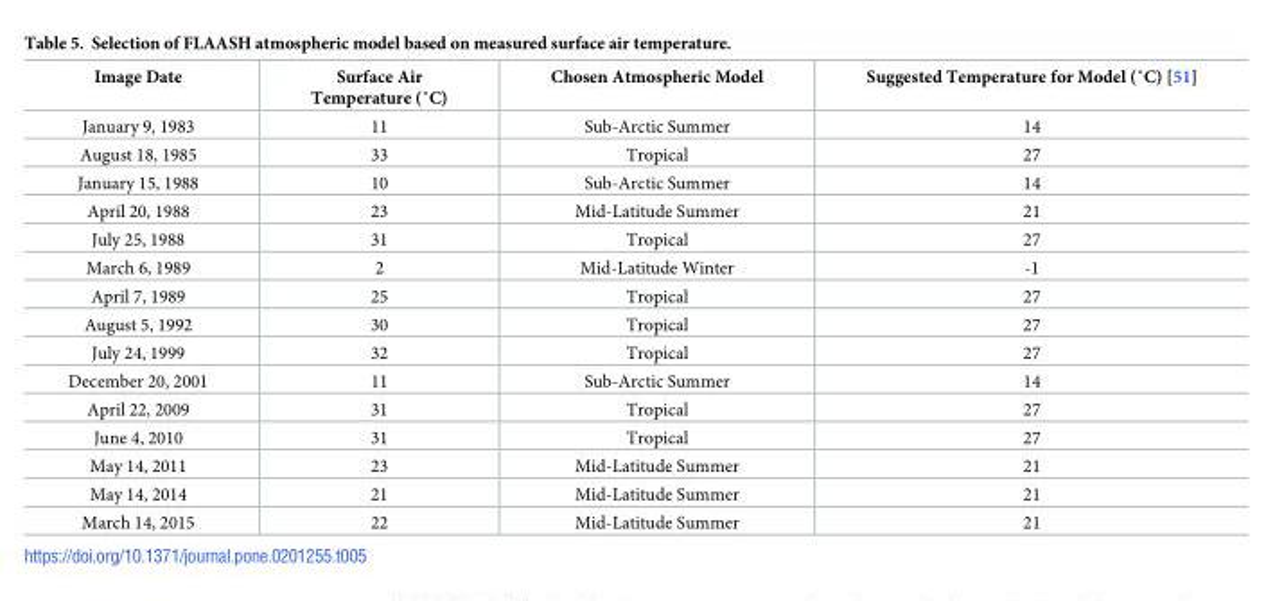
<table><thead><tr><td>Image Date</td><td>Surface Air Temperature (˚C)</td><td>Chosen Atmospheric Model</td><td>Suggested Temperature for Model (˚C) [51]</td></tr></thead><tbody><tr><td>January 9, 1983</td><td>11</td><td>Sub-Arctic Summer</td><td>14</td></tr><tr><td>August 18, 1985</td><td>33</td><td>Tropical</td><td>27</td></tr><tr><td>January 15, 1988</td><td>10</td><td>Sub-Arctic Summer</td><td>14</td></tr><tr><td>April 20, 1988</td><td>23</td><td>Mid-Latitude Summer</td><td>21</td></tr><tr><td>July 25, 1988</td><td>31</td><td>Tropical</td><td>27</td></tr><tr><td>March 6, 1989</td><td>2</td><td>Mid-Latitude Winter</td><td>-1</td></tr><tr><td>April 7, 1989</td><td>25</td><td>Tropical</td><td>27</td></tr><tr><td>August 5, 1992</td><td>30</td><td>Tropical</td><td>27</td></tr><tr><td>July 24, 1999</td><td>32</td><td>Tropical</td><td>27</td></tr><tr><td>December 20, 2001</td><td>11</td><td>Sub-Arctic Summer</td><td>14</td></tr><tr><td>April 22, 2009</td><td>31</td><td>Tropical</td><td>27</td></tr><tr><td>June 4, 2010</td><td>31</td><td>Tropical</td><td>27</td></tr><tr><td>May 14, 2011</td><td>23</td><td>Mid-Latitude Summer</td><td>21</td></tr><tr><td>May 14, 2014</td><td>21</td><td>Mid-Latitude Summer</td><td>21</td></tr><tr><td>March 14, 2015</td><td>22</td><td>Mid-Latitude Summer</td><td>21</td></tr></tbody></table>